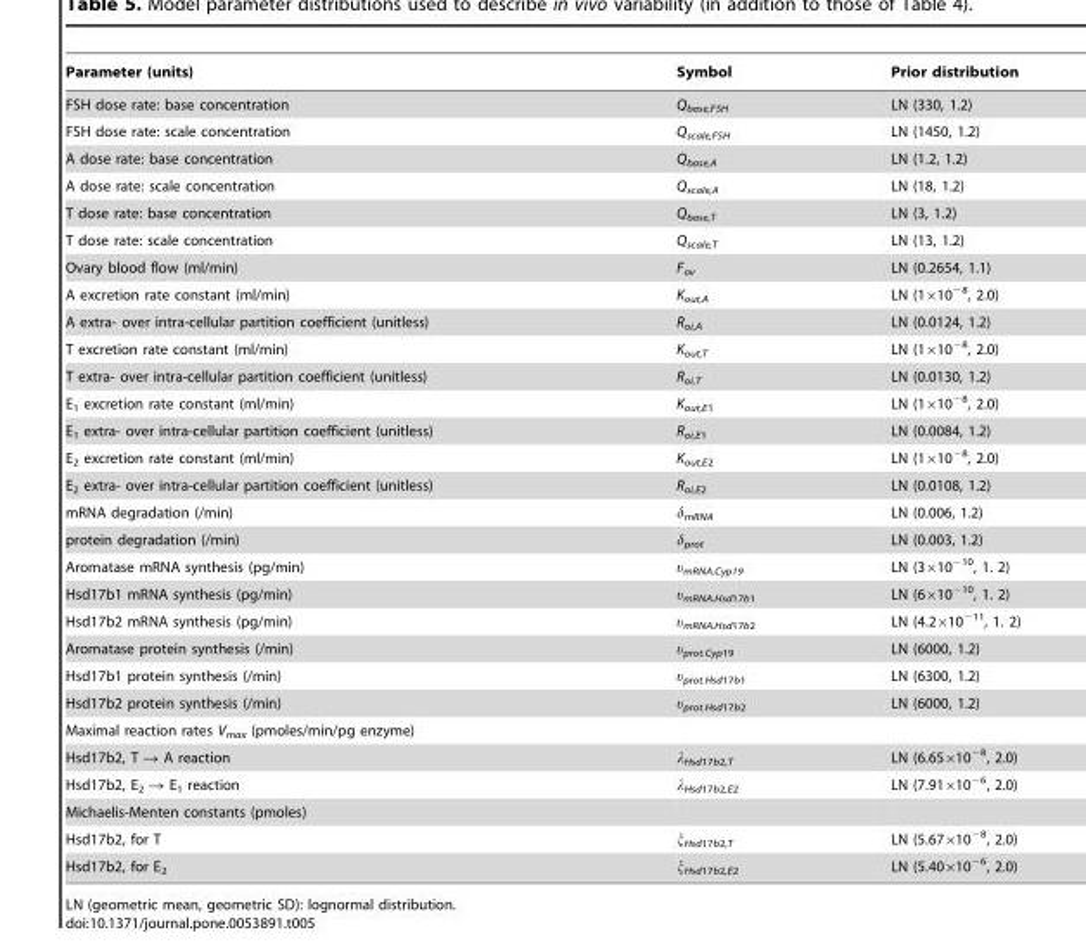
<table><thead><tr><td>Parameter (units)</td><td>Symbol</td><td>Prior distribution</td></tr></thead><tbody><tr><td>FSH dose rate: base concentration</td><td>Q<sub>base,FSH</sub></td><td>LN (330, 1.2)</td></tr><tr><td>FSH dose rate: scale concentration</td><td>Q<sub>scale,FSH</sub></td><td>LN (1450, 1.2)</td></tr><tr><td>A dose rate: base concentration</td><td>Q<sub>base,A</sub></td><td>LN (1.2, 1.2)</td></tr><tr><td>A dose rate: scale concentration</td><td>Q<sub>scale,A</sub></td><td>LN (18, 1.2)</td></tr><tr><td>T dose rate: base concentration</td><td>Q<sub>base,T</sub></td><td>LN (3, 1.2)</td></tr><tr><td>T dose rate: scale concentration</td><td>Q<sub>scale,T</sub></td><td>LN (13, 1.2)</td></tr><tr><td>Ovary blood flow (ml/min)</td><td>F<sub>ov</sub></td><td>LN (0.2654, 1.1)</td></tr><tr><td>A excretion rate constant (ml/min)</td><td>K<sub>out,A</sub></td><td>LN (1×10<sup>−8</sup>, 2.0)</td></tr><tr><td>A extra- over intra-cellular partition coefficient (unitless)</td><td>R<sub>oi,A</sub></td><td>LN (0.0124, 1.2)</td></tr><tr><td>T excretion rate constant (ml/min)</td><td>K<sub>out,T</sub></td><td>LN (1×10<sup>−8</sup>, 2.0)</td></tr><tr><td>T extra- over intra-cellular partition coefficient (unitless)</td><td>R<sub>oi,T</sub></td><td>LN (0.0130, 1.2)</td></tr><tr><td>E<sub>1</sub> excretion rate constant (ml/min)</td><td>K<sub>out,E1</sub></td><td>LN (1×10<sup>−8</sup>, 2.0)</td></tr><tr><td>E<sub>1</sub> extra- over intra-cellular partition coefficient (unitless)</td><td>R<sub>oi,E1</sub></td><td>LN (0.0084, 1.2)</td></tr><tr><td>E<sub>2</sub> excretion rate constant (ml/min)</td><td>K<sub>out,E2</sub></td><td>LN (1×10<sup>−8</sup>, 2.0)</td></tr><tr><td>E<sub>2</sub> extra- over intra-cellular partition coefficient (unitless)</td><td>R<sub>oi,E2</sub></td><td>LN (0.0108, 1.2)</td></tr><tr><td>mRNA degradation (/min)</td><td>δ<sub>mRNA</sub></td><td>LN (0.006, 1.2)</td></tr><tr><td>protein degradation (/min)</td><td>δ<sub>prot</sub></td><td>LN (0.003, 1.2)</td></tr><tr><td>Aromatase mRNA synthesis (pg/min)</td><td>υ<sub>mRNA.Cyp19</sub></td><td>LN (3×10<sup>−10</sup>, 1. 2)</td></tr><tr><td>Hsd17b1 mRNA synthesis (pg/min)</td><td>υ<sub>mRNA.Hsd17b1</sub></td><td>LN (6×10<sup>−10</sup>, 1. 2)</td></tr><tr><td>Hsd17b2 mRNA synthesis (pg/min)</td><td>υ<sub>mRNA.Hsd17b2</sub></td><td>LN (4.2×10<sup>−11</sup>, 1. 2)</td></tr><tr><td>Aromatase protein synthesis (/min)</td><td>υ<sub>prot.Cyp19</sub></td><td>LN (6000, 1.2)</td></tr><tr><td>Hsd17b1 protein synthesis (/min)</td><td>υ<sub>prot.Hsd17b1</sub></td><td>LN (6300, 1.2)</td></tr><tr><td>Hsd17b2 protein synthesis (/min)</td><td>υ<sub>prot.Hsd17b2</sub></td><td>LN (6000, 1.2)</td></tr><tr><td colspan="3">Maximal reaction rates V<sub>max</sub> (pmoles/min/pg enzyme)</td></tr><tr><td>Hsd17b2, T → A reaction</td><td>λ<sub>Hsd17b2,T</sub></td><td>LN (6.65×10<sup>−8</sup>, 2.0)</td></tr><tr><td>Hsd17b2, E<sub>2</sub> → E<sub>1</sub> reaction</td><td>λ<sub>Hsd17b2,E2</sub></td><td>LN (7.91×10<sup>−6</sup>, 2.0)</td></tr><tr><td colspan="3">Michaelis-Menten constants (pmoles)</td></tr><tr><td>Hsd17b2, for T</td><td>ξ<sub>Hsd17b2,T</sub></td><td>LN (5.67×10<sup>−8</sup>, 2.0)</td></tr><tr><td>Hsd17b2, for E<sub>2</sub></td><td>ξ<sub>Hsd17b2,E2</sub></td><td>LN (5.40×10<sup>−6</sup>, 2.0)</td></tr></tbody></table>